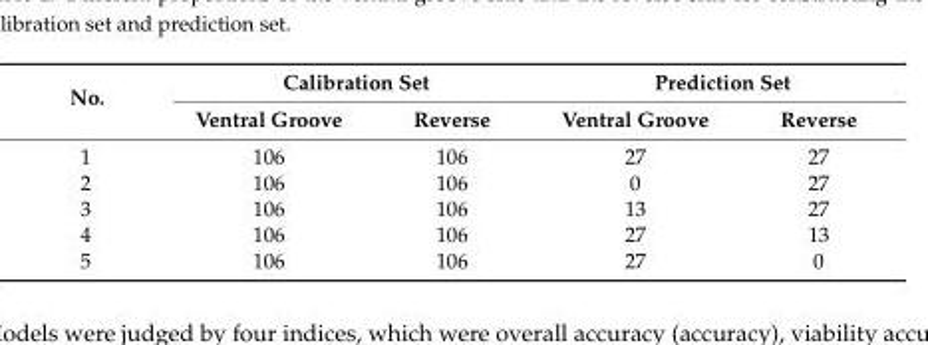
<table><thead><tr><td rowspan="2">No.</td><td colspan="2">Calibration Set</td><td colspan="2">Prediction Set</td></tr><tr><td>Ventral Groove</td><td>Reverse</td><td>Ventral Groove</td><td>Reverse</td></tr></thead><tbody><tr><td>1</td><td>106</td><td>106</td><td>27</td><td>27</td></tr><tr><td>2</td><td>106</td><td>106</td><td>0</td><td>27</td></tr><tr><td>3</td><td>106</td><td>106</td><td>13</td><td>27</td></tr><tr><td>4</td><td>106</td><td>106</td><td>27</td><td>13</td></tr><tr><td>5</td><td>106</td><td>106</td><td>27</td><td>0</td></tr></tbody></table>